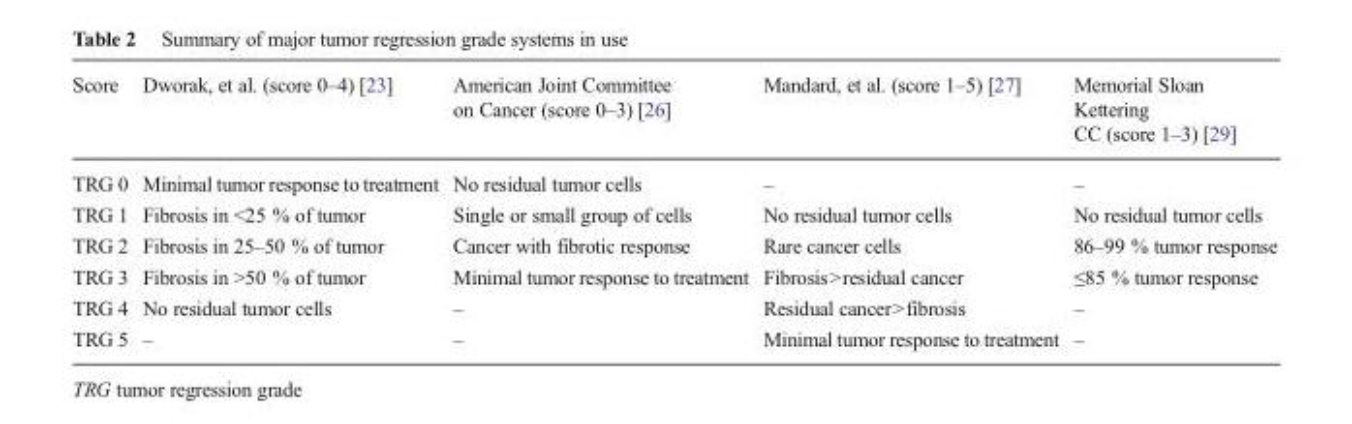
<table><thead><tr><td>Score</td><td>Dworak, et al. (score 0–4) [23]</td><td>American Joint Committee on Cancer (score 0–3) [26]</td><td>Mandard, et al. (score 1–5) [27]</td><td>Memorial Sloan Kettering CC (score 1–3) [29]</td></tr></thead><tbody><tr><td>TRG 0</td><td>Minimal tumor response to treatment</td><td>No residual tumor cells</td><td>–</td><td>–</td></tr><tr><td>TRG 1</td><td>Fibrosis in &lt;25 % of tumor</td><td>Single or small group of cells</td><td>No residual tumor cells</td><td>No residual tumor cells</td></tr><tr><td>TRG 2</td><td>Fibrosis in 25–50 % of tumor</td><td>Cancer with fibrotic response</td><td>Rare cancer cells</td><td>86–99 % tumor response</td></tr><tr><td>TRG 3</td><td>Fibrosis in &gt;50 % of tumor</td><td>Minimal tumor response to treatment</td><td>Fibrosis&gt;residual cancer</td><td>≤85 % tumor response</td></tr><tr><td>TRG 4</td><td>No residual tumor cells</td><td>–</td><td>Residual cancer&gt;fibrosis</td><td>–</td></tr><tr><td>TRG 5</td><td>–</td><td>–</td><td>Minimal tumor response to treatment</td><td>–</td></tr></tbody></table>